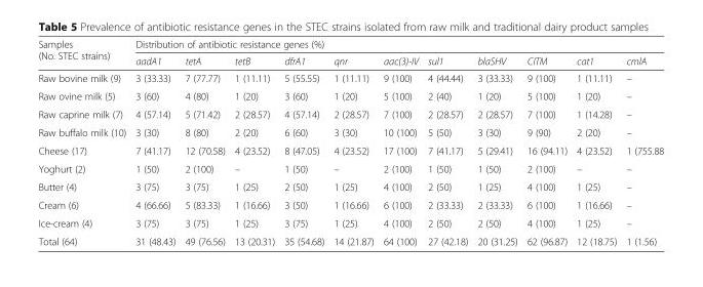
<table><thead><tr><td rowspan="2">Samples (No. STEC strains)</td><td colspan="11">Distribution of antibiotic resistance genes (%)</td></tr><tr><td>aadA1</td><td>tetA</td><td>tetB</td><td>dfrA1</td><td>qnr</td><td>aac(3)-IV</td><td>sul1</td><td>blaSHV</td><td>CITM</td><td>cat1</td><td>cmlA</td></tr></thead><tbody><tr><td>Raw bovine milk (9)</td><td>3 (33.33)</td><td>7 (77.77)</td><td>1 (11.11)</td><td>5 (55.55)</td><td>1 (11.11)</td><td>9 (100)</td><td>4 (44.44)</td><td>3 (33.33)</td><td>9 (100)</td><td>1 (11.11)</td><td>–</td></tr><tr><td>Raw ovine milk (5)</td><td>3 (60)</td><td>4 (80)</td><td>1 (20)</td><td>3 (60)</td><td>1 (20)</td><td>5 (100)</td><td>2 (40)</td><td>1 (20)</td><td>5 (100)</td><td>1 (20)</td><td>–</td></tr><tr><td>Raw caprine milk (7)</td><td>4 (57.14)</td><td>5 (71.42)</td><td>2 (28.57)</td><td>4 (57.14)</td><td>2 (28.57)</td><td>7 (100)</td><td>2 (28.57)</td><td>2 (28.57)</td><td>7 (100)</td><td>1 (14.28)</td><td>–</td></tr><tr><td>Raw buffalo milk (10)</td><td>3 (30)</td><td>8 (80)</td><td>2 (20)</td><td>6 (60)</td><td>3 (30)</td><td>10 (100)</td><td>5 (50)</td><td>3 (30)</td><td>9 (90)</td><td>2 (20)</td><td>–</td></tr><tr><td>Cheese (17)</td><td>7 (41.17)</td><td>12 (70.58)</td><td>4 (23.52)</td><td>8 (47.05)</td><td>4 (23.52)</td><td>17 (100)</td><td>7 (41.17)</td><td>5 (29.41)</td><td>16 (94.11)</td><td>4 (23.52)</td><td>1 (755.88</td></tr><tr><td>Yoghurt (2)</td><td>1 (50)</td><td>2 (100)</td><td>–</td><td>1 (50)</td><td>–</td><td>2 (100)</td><td>1 (50)</td><td>1 (50)</td><td>2 (100)</td><td>–</td><td>–</td></tr><tr><td>Butter (4)</td><td>3 (75)</td><td>3 (75)</td><td>1 (25)</td><td>2 (50)</td><td>1 (25)</td><td>4 (100)</td><td>2 (50)</td><td>1 (25)</td><td>4 (100)</td><td>1 (25)</td><td>–</td></tr><tr><td>Cream (6)</td><td>4 (66.66)</td><td>5 (83.33)</td><td>1 (16.66)</td><td>3 (50)</td><td>1 (16.66)</td><td>6 (100)</td><td>2 (33.33)</td><td>2 (33.33)</td><td>6 (100)</td><td>1 (16.66)</td><td>–</td></tr><tr><td>Ice-cream (4)</td><td>3 (75)</td><td>3 (75)</td><td>1 (25)</td><td>3 (75)</td><td>1 (25)</td><td>4 (100)</td><td>2 (50)</td><td>2 (50)</td><td>4 (100)</td><td>1 (25)</td><td>–</td></tr><tr><td>Total (64)</td><td>31 (48.43)</td><td>49 (76.56)</td><td>13 (20.31)</td><td>35 (54.68)</td><td>14 (21.87)</td><td>64 (100)</td><td>27 (42.18)</td><td>20 (31.25)</td><td>62 (96.87)</td><td>12 (18.75)</td><td>1 (1.56)</td></tr></tbody></table>